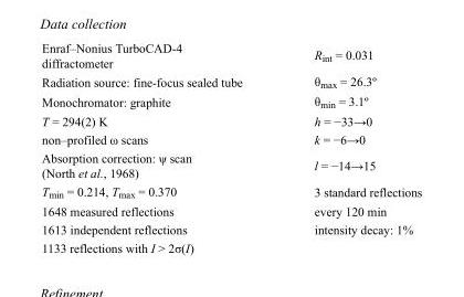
<table><tbody><tr><td>Enraf–Nonius TurboCAD-4 diffractometer</td><td>R<sub>int</sub> = 0.031</td></tr><tr><td>Radiation source: fine-focus sealed tube</td><td>θ<sub>max</sub> = 26.3º</td></tr><tr><td>Monochromator: graphite</td><td>θ<sub>min</sub> = 3.1º</td></tr><tr><td>T = 294(2) K</td><td>h = −33→0</td></tr><tr><td>non–profiled ω scans</td><td>k = −6→0</td></tr><tr><td>Absorption correction: ψ scan (North et al., 1968)</td><td>l = −14→15</td></tr><tr><td>T<sub>min</sub> = 0.214, T<sub>max</sub> = 0.370</td><td>3 standard reflections</td></tr><tr><td>1648 measured reflections</td><td>every 120 min</td></tr><tr><td>1613 independent reflections</td><td>intensity decay: 1%</td></tr><tr><td>1133 reflections with I &gt; 2σ(I)</td><td></td></tr></tbody></table>